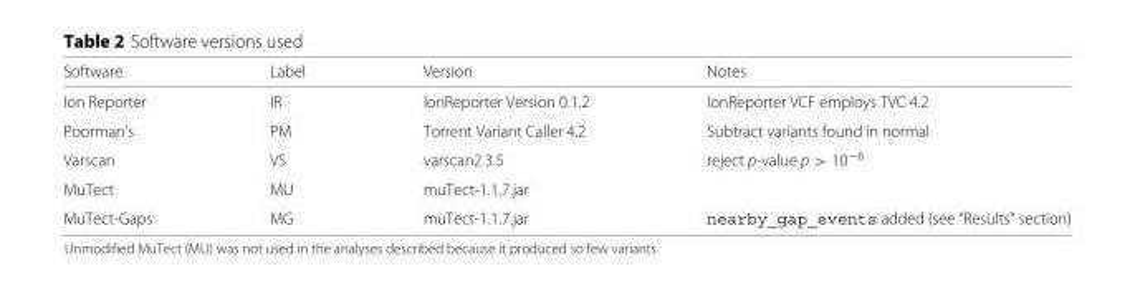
<table><thead><tr><td>Software</td><td>Label</td><td>Version</td><td>Notes</td></tr></thead><tbody><tr><td>Ion Reporter</td><td>IR</td><td>IonReporter Version 0.1.2</td><td>IonReporter VCF employs TVC 4.2</td></tr><tr><td>Poorman’s</td><td>PM</td><td>Torrent Variant Caller 4.2</td><td>Subtract variants found in normal</td></tr><tr><td>Varscan</td><td>VS</td><td>varscan2.3.5</td><td>reject p-value p &gt; 10<sup>−6</sup></td></tr><tr><td>MuTect</td><td>MU</td><td>muTect-1.1.7.jar</td><td></td></tr><tr><td>MuTect-Gaps</td><td>MG</td><td>muTect-1.1.7.jar</td><td>nearby_gap_events added (see “Results” section)</td></tr></tbody></table>